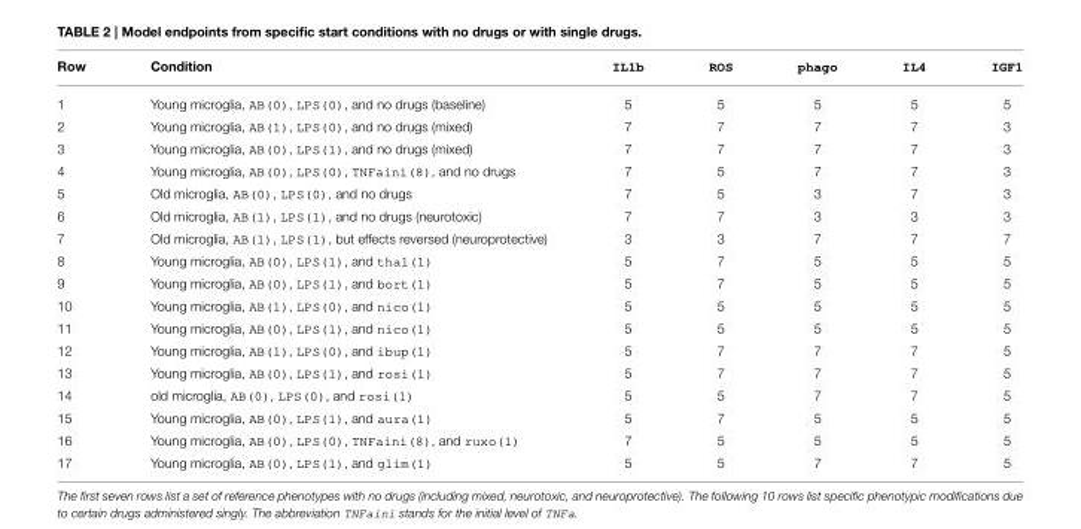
<table><thead><tr><td>Row</td><td>Condition</td><td>IL1b</td><td>ROS</td><td>phago</td><td>IL4</td><td>IGF1</td></tr></thead><tbody><tr><td>1</td><td>Young microglia, AB(0), LPS(0), and no drugs (baseline)</td><td>5</td><td>5</td><td>5</td><td>5</td><td>5</td></tr><tr><td>2</td><td>Young microglia, AB(1), LPS(0), and no drugs (mixed)</td><td>7</td><td>7</td><td>7</td><td>7</td><td>3</td></tr><tr><td>3</td><td>Young microglia, AB(0), LPS(1), and no drugs (mixed)</td><td>7</td><td>7</td><td>7</td><td>7</td><td>3</td></tr><tr><td>4</td><td>Young microglia, AB(0), LPS(0), TNFaini(8), and no drugs</td><td>7</td><td>5</td><td>7</td><td>7</td><td>3</td></tr><tr><td>5</td><td>Old microglia, AB(0), LPS(0), and no drugs</td><td>7</td><td>5</td><td>3</td><td>7</td><td>3</td></tr><tr><td>6</td><td>Old microglia, AB(1), LPS(1), and no drugs (neurotoxic)</td><td>7</td><td>7</td><td>3</td><td>3</td><td>3</td></tr><tr><td>7</td><td>Old microglia, AB(1), LPS(1), but effects reversed (neuroprotective)</td><td>3</td><td>3</td><td>7</td><td>7</td><td>7</td></tr><tr><td>8</td><td>Young microglia, AB(0), LPS(1), and thal(1)</td><td>5</td><td>7</td><td>5</td><td>5</td><td>5</td></tr><tr><td>9</td><td>Young microglia, AB(0), LPS(1), and bort(1)</td><td>5</td><td>7</td><td>5</td><td>5</td><td>5</td></tr><tr><td>10</td><td>Young microglia, AB(1), LPS(0), and nico(1)</td><td>5</td><td>5</td><td>5</td><td>5</td><td>5</td></tr><tr><td>11</td><td>Young microglia, AB(0), LPS(1), and nico(1)</td><td>5</td><td>5</td><td>5</td><td>5</td><td>5</td></tr><tr><td>12</td><td>Young microglia, AB(1), LPS(0), and ibup(1)</td><td>5</td><td>7</td><td>7</td><td>7</td><td>5</td></tr><tr><td>13</td><td>Young microglia, AB(0), LPS(1), and rosi(1)</td><td>5</td><td>7</td><td>7</td><td>7</td><td>5</td></tr><tr><td>14</td><td>old microglia, AB(0), LPS(0), and rosi(1)</td><td>5</td><td>5</td><td>7</td><td>7</td><td>5</td></tr><tr><td>15</td><td>Young microglia, AB(0), LPS(1), and aura(1)</td><td>5</td><td>7</td><td>5</td><td>5</td><td>5</td></tr><tr><td>16</td><td>Young microglia, AB(0), LPS(0), TNFaini(8), and ruxo(1)</td><td>7</td><td>5</td><td>5</td><td>5</td><td>5</td></tr><tr><td>17</td><td>Young microglia, AB(0), LPS(1), and glim(1)</td><td>5</td><td>5</td><td>7</td><td>7</td><td>5</td></tr></tbody></table>